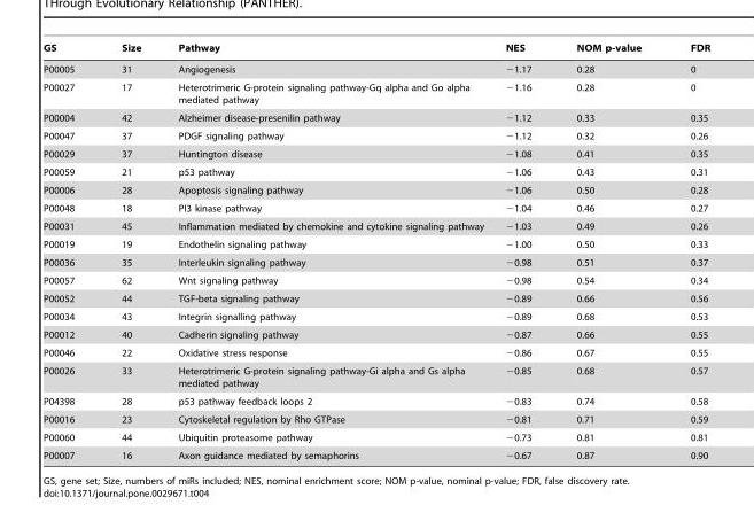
<table><thead><tr><td>GS</td><td>Size</td><td>Pathway</td><td>NES</td><td>NOM p-value</td><td>FDR</td></tr></thead><tbody><tr><td>P00005</td><td>31</td><td>Angiogenesis</td><td>−1.17</td><td>0.28</td><td>0</td></tr><tr><td>P00027</td><td>17</td><td>Heterotrimeric G-protein signaling pathway-Gq alpha and Go alpha mediated pathway</td><td>−1.16</td><td>0.28</td><td>0</td></tr><tr><td>P00004</td><td>42</td><td>Alzheimer disease-presenilin pathway</td><td>−1.12</td><td>0.33</td><td>0.35</td></tr><tr><td>P00047</td><td>37</td><td>PDGF signaling pathway</td><td>−1.12</td><td>0.32</td><td>0.26</td></tr><tr><td>P00029</td><td>37</td><td>Huntington disease</td><td>−1.08</td><td>0.41</td><td>0.35</td></tr><tr><td>P00059</td><td>21</td><td>p53 pathway</td><td>−1.06</td><td>0.43</td><td>0.31</td></tr><tr><td>P00006</td><td>28</td><td>Apoptosis signaling pathway</td><td>−1.06</td><td>0.50</td><td>0.28</td></tr><tr><td>P00048</td><td>18</td><td>PI3 kinase pathway</td><td>−1.04</td><td>0.46</td><td>0.27</td></tr><tr><td>P00031</td><td>45</td><td>Inflammation mediated by chemokine and cytokine signaling pathway</td><td>−1.03</td><td>0.49</td><td>0.26</td></tr><tr><td>P00019</td><td>19</td><td>Endothelin signaling pathway</td><td>−1.00</td><td>0.50</td><td>0.33</td></tr><tr><td>P00036</td><td>35</td><td>Interleukin signaling pathway</td><td>−0.98</td><td>0.51</td><td>0.37</td></tr><tr><td>P00057</td><td>62</td><td>Wnt signaling pathway</td><td>−0.98</td><td>0.54</td><td>0.34</td></tr><tr><td>P00052</td><td>44</td><td>TGF-beta signaling pathway</td><td>−0.89</td><td>0.66</td><td>0.56</td></tr><tr><td>P00034</td><td>43</td><td>Integrin signalling pathway</td><td>−0.89</td><td>0.68</td><td>0.53</td></tr><tr><td>P00012</td><td>40</td><td>Cadherin signaling pathway</td><td>−0.87</td><td>0.66</td><td>0.55</td></tr><tr><td>P00046</td><td>22</td><td>Oxidative stress response</td><td>−0.86</td><td>0.67</td><td>0.55</td></tr><tr><td>P00026</td><td>33</td><td>Heterotrimeric G-protein signaling pathway-Gi alpha and Gs alpha mediated pathway</td><td>−0.85</td><td>0.68</td><td>0.57</td></tr><tr><td>P04398</td><td>28</td><td>p53 pathway feedback loops 2</td><td>−0.83</td><td>0.74</td><td>0.58</td></tr><tr><td>P00016</td><td>23</td><td>Cytoskeletal regulation by Rho GTPase</td><td>−0.81</td><td>0.71</td><td>0.59</td></tr><tr><td>P00060</td><td>44</td><td>Ubiquitin proteasome pathway</td><td>−0.73</td><td>0.81</td><td>0.81</td></tr><tr><td>P00007</td><td>16</td><td>Axon guidance mediated by semaphorins</td><td>−0.67</td><td>0.87</td><td>0.90</td></tr></tbody></table>